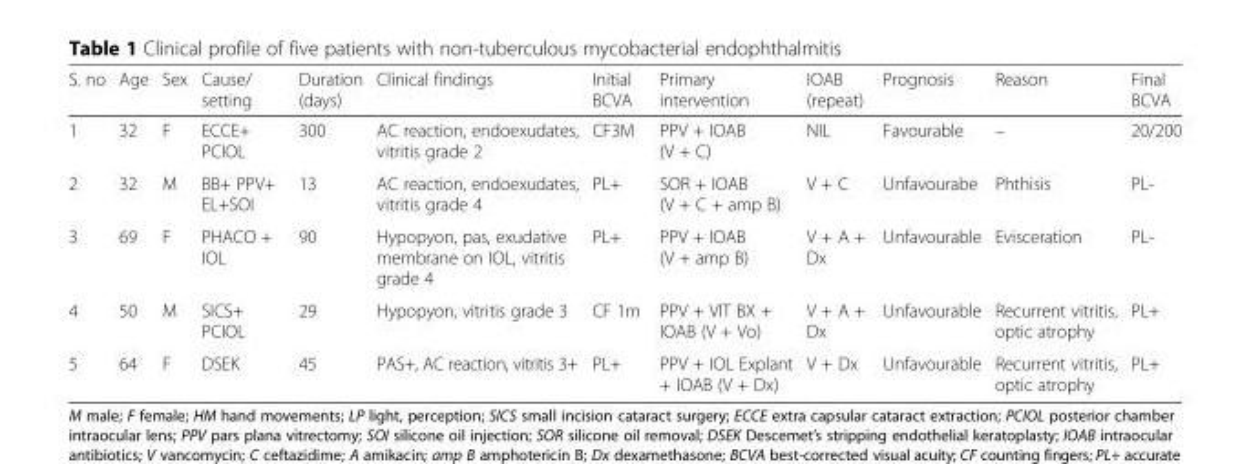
<table><thead><tr><td>S. no</td><td>Age</td><td>Sex</td><td>Cause/ setting</td><td>Duration (days)</td><td>Clinical findings</td><td>Initial BCVA</td><td>Primary intervention</td><td>IOAB (repeat)</td><td>Prognosis</td><td>Reason</td><td>Final BCVA</td></tr></thead><tbody><tr><td>1</td><td>32</td><td>F</td><td>ECCE+ PCIOL</td><td>300</td><td>AC reaction, endoexudates, vitritis grade 2</td><td>CF3M</td><td>PPV + IOAB (V + C)</td><td>NIL</td><td>Favourable</td><td>–</td><td>20/200</td></tr><tr><td>2</td><td>32</td><td>M</td><td>BB+ PPV+ EL+SOI</td><td>13</td><td>AC reaction, endoexudates, vitritis grade 4</td><td>PL+</td><td>SOR + IOAB (V + C + amp B)</td><td>V + C</td><td>Unfavourabe</td><td>Phthisis</td><td>PL-</td></tr><tr><td>3</td><td>69</td><td>F</td><td>PHACO + IOL</td><td>90</td><td>Hypopyon, pas, exudative membrane on IOL, vitritis grade 4</td><td>PL+</td><td>PPV + IOAB (V + amp B)</td><td>V + A + Dx</td><td>Unfavourable</td><td>Evisceration</td><td>PL-</td></tr><tr><td>4</td><td>50</td><td>M</td><td>SICS+ PCIOL</td><td>29</td><td>Hypopyon, vitritis grade 3</td><td>CF 1m</td><td>PPV + VIT BX + IOAB (V + Vo)</td><td>V + A + Dx</td><td>Unfavourable</td><td>Recurrent vitritis, optic atrophy</td><td>PL+</td></tr><tr><td>5</td><td>64</td><td>F</td><td>DSEK</td><td>45</td><td>PAS+, AC reaction, vitritis 3+</td><td>PL+</td><td>PPV + IOL Explant + IOAB (V + Dx)</td><td>V + Dx</td><td>Unfavourable</td><td>Recurrent vitritis, optic atrophy</td><td>PL+</td></tr></tbody></table>